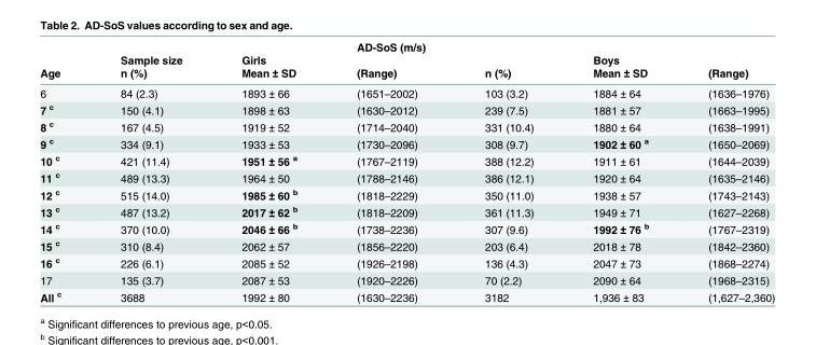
<table><thead><tr><td rowspan="3">Age</td><td rowspan="3">Sample size n (%)</td><td rowspan="3">Girls Mean ± SD</td><td rowspan="3">AD-SoS (m/s) (Range)</td><td rowspan="3">n (%)</td><td rowspan="3">Boys Mean ± SD</td><td rowspan="3">(Range)</td></tr><tr></tr><tr></tr></thead><tbody><tr><td>6</td><td>84 (2.3)</td><td>1893 ± 66</td><td>(1651–2002)</td><td>103 (3.2)</td><td>1884 ± 64</td><td>(1636–1976)</td></tr><tr><td>7 <sup>c</sup></td><td>150 (4.1)</td><td>1898 ± 63</td><td>(1630–2012)</td><td>239 (7.5)</td><td>1881 ± 57</td><td>(1663–1995)</td></tr><tr><td>8 <sup>c</sup></td><td>167 (4.5)</td><td>1919 ± 52</td><td>(1714–2040)</td><td>331 (10.4)</td><td>1880 ± 64</td><td>(1638–1991)</td></tr><tr><td>9 <sup>c</sup></td><td>334 (9.1)</td><td>1933 ± 53</td><td>(1730–2096)</td><td>308 (9.7)</td><td>1902 ± 60 <sup>a</sup></td><td>(1650–2069)</td></tr><tr><td>10 <sup>c</sup></td><td>421 (11.4)</td><td>1951 ± 56 <sup>a</sup></td><td>(1767–2119)</td><td>388 (12.2)</td><td>1911 ± 61</td><td>(1644–2039)</td></tr><tr><td>11 <sup>c</sup></td><td>489 (13.3)</td><td>1964 ± 50</td><td>(1788–2146)</td><td>386 (12.1)</td><td>1920 ± 64</td><td>(1635–2146)</td></tr><tr><td>12 <sup>c</sup></td><td>515 (14.0)</td><td>1985 ± 60 <sup>b</sup></td><td>(1818–2229)</td><td>350 (11.0)</td><td>1938 ± 57</td><td>(1743–2143)</td></tr><tr><td>13 <sup>c</sup></td><td>487 (13.2)</td><td>2017 ± 62 <sup>b</sup></td><td>(1818–2209)</td><td>361 (11.3)</td><td>1949 ± 71</td><td>(1627–2268)</td></tr><tr><td>14 <sup>c</sup></td><td>370 (10.0)</td><td>2046 ± 66 <sup>b</sup></td><td>(1738–2236)</td><td>307 (9.6)</td><td>1992 ± 76 <sup>b</sup></td><td>(1767–2319)</td></tr><tr><td>15 <sup>c</sup></td><td>310 (8.4)</td><td>2062 ± 57</td><td>(1856–2220)</td><td>203 (6.4)</td><td>2018 ± 78</td><td>(1842–2360)</td></tr><tr><td>16 <sup>c</sup></td><td>226 (6.1)</td><td>2085 ± 52</td><td>(1926–2198)</td><td>136 (4.3)</td><td>2047 ± 73</td><td>(1868–2274)</td></tr><tr><td>17</td><td>135 (3.7)</td><td>2087 ± 53</td><td>(1920–2226)</td><td>70 (2.2)</td><td>2090 ± 64</td><td>(1968–2315)</td></tr><tr><td>All <sup>c</sup></td><td>3688</td><td>1992 ± 80</td><td>(1630–2236)</td><td>3182</td><td>1,936 ± 83</td><td>(1,627–2,360)</td></tr></tbody></table>